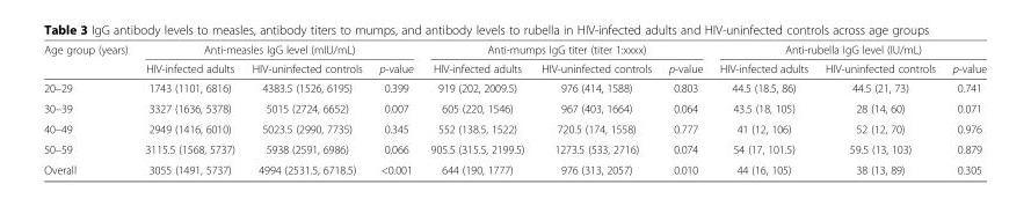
<table><thead><tr><td rowspan="2">Age group (years)</td><td colspan="3">Anti-measles IgG level (mIU/mL)</td><td colspan="3">Anti-mumps IgG titer (titer 1:xxxx)</td><td colspan="3">Anti-rubella IgG level (IU/mL)</td></tr><tr><td>HIV-infected adults</td><td>HIV-uninfected controls</td><td>p-value</td><td>HIV-infected adults</td><td>HIV-uninfected controls</td><td>p-value</td><td>HIV-infected adults</td><td>HIV-uninfected controls</td><td>p-value</td></tr></thead><tbody><tr><td>20–29</td><td>1743 (1101, 6816)</td><td>4383.5 (1526, 6195)</td><td>0.399</td><td>919 (202, 2009.5)</td><td>976 (414, 1588)</td><td>0.803</td><td>44.5 (18.5, 86)</td><td>44.5 (21, 73)</td><td>0.741</td></tr><tr><td>30–39</td><td>3327 (1636, 5378)</td><td>5015 (2724, 6652)</td><td>0.007</td><td>605 (220, 1546)</td><td>967 (403, 1664)</td><td>0.064</td><td>43.5 (18, 105)</td><td>28 (14, 60)</td><td>0.071</td></tr><tr><td>40–49</td><td>2949 (1416, 6010)</td><td>5023.5 (2990, 7735)</td><td>0.345</td><td>552 (138.5, 1522)</td><td>720.5 (174, 1558)</td><td>0.777</td><td>41 (12, 106)</td><td>52 (12, 70)</td><td>0.976</td></tr><tr><td>50–59</td><td>3115.5 (1568, 5737)</td><td>5938 (2591, 6986)</td><td>0.066</td><td>905.5 (315.5, 2199.5)</td><td>1273.5 (533, 2716)</td><td>0.074</td><td>54 (17, 101.5)</td><td>59.5 (13, 103)</td><td>0.879</td></tr><tr><td>Overall</td><td>3055 (1491, 5737)</td><td>4994 (2531.5, 6718.5)</td><td>&lt;0.001</td><td>644 (190, 1777)</td><td>976 (313, 2057)</td><td>0.010</td><td>44 (16, 105)</td><td>38 (13, 89)</td><td>0.305</td></tr></tbody></table>